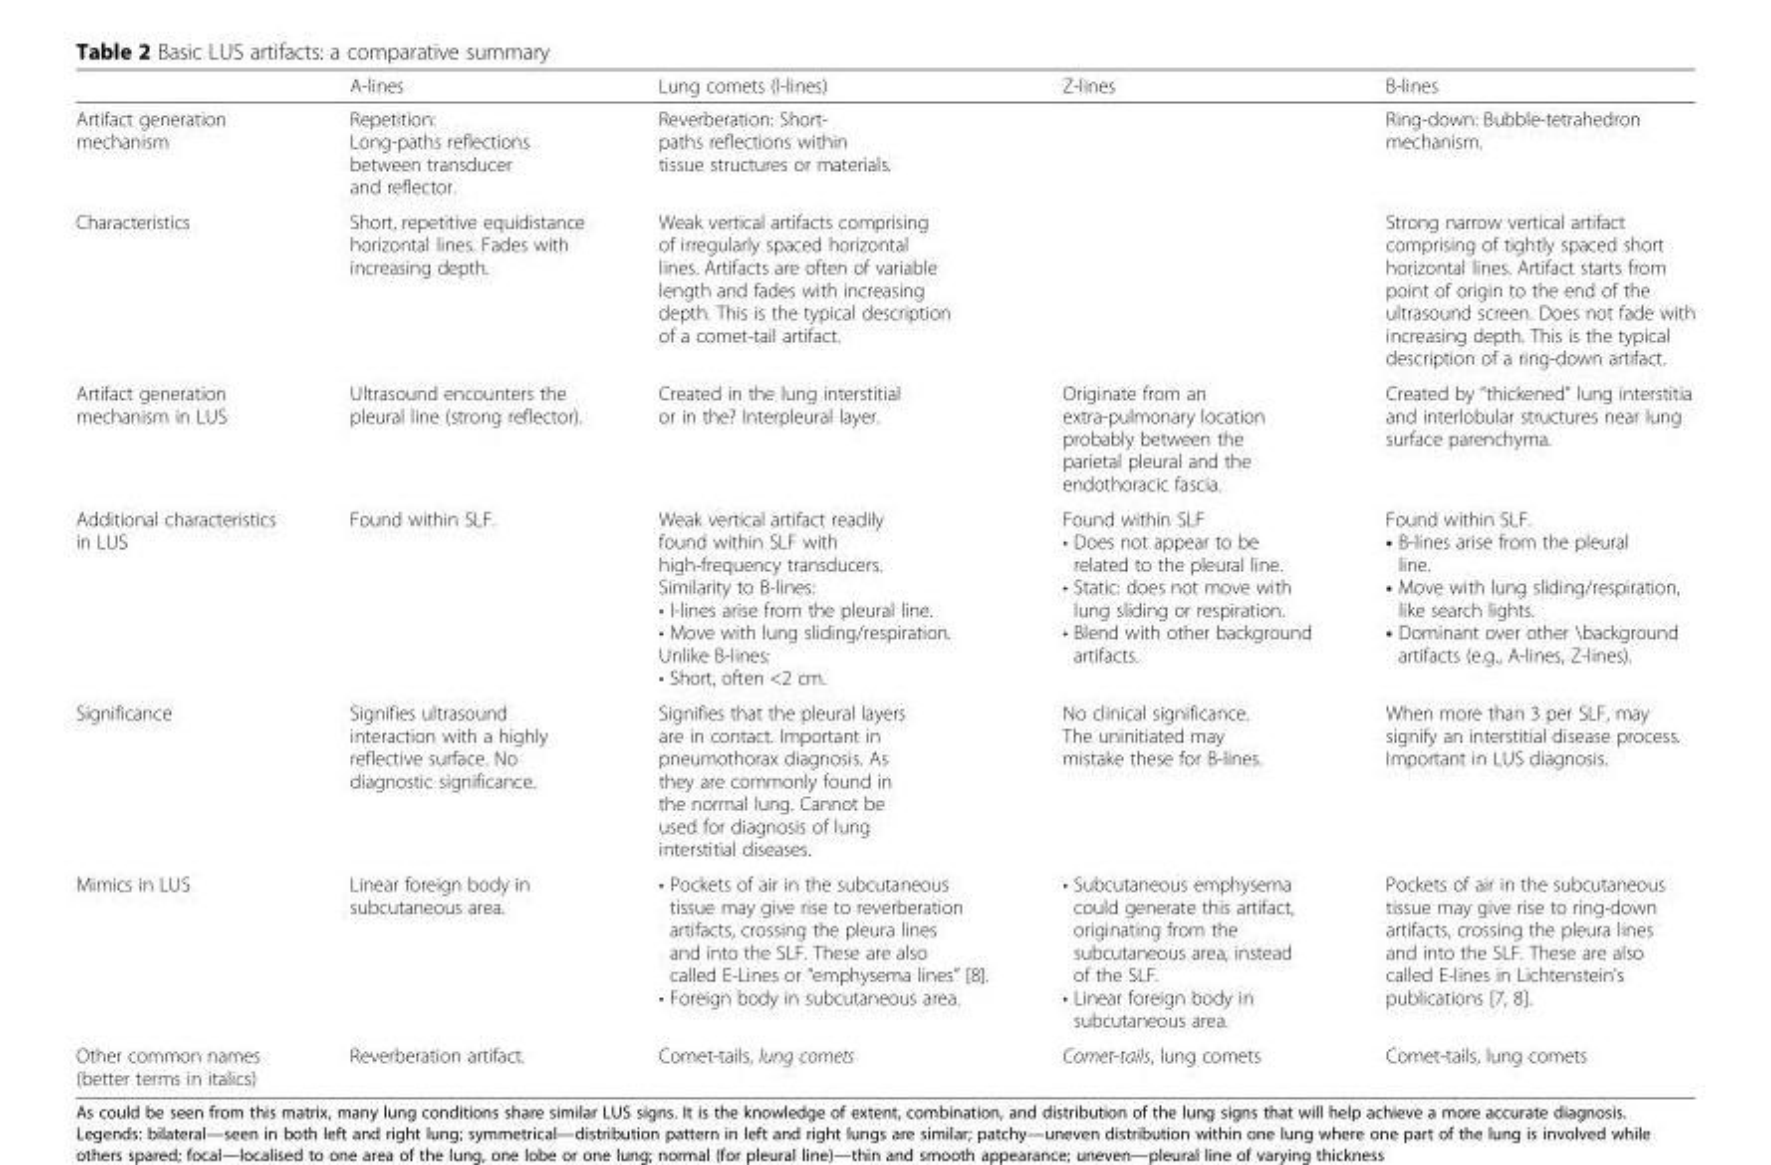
<table><thead><tr><td></td><td>A-lines</td><td>Lung comets (l-lines)</td><td>Z-lines</td><td>B-lines</td></tr></thead><tbody><tr><td>Artifact generation mechanism</td><td>Repetition: Long-paths reflections between transducer and reflector.</td><td colspan="2">Reverberation: Short- paths reflections within tissue structures or materials.</td><td>Ring-down: Bubble-tetrahedron mechanism.</td></tr><tr><td>Characteristics</td><td>Short, repetitive equidistance horizontal lines. Fades with increasing depth.</td><td colspan="2">Weak vertical artifacts comprising of irregularly spaced horizontal lines. Artifacts are often of variable length and fades with increasing depth. This is the typical description of a comet-tail artifact.</td><td>Strong narrow vertical artifact comprising of tightly spaced short horizontal lines. Artifact starts from point of origin to the end of the ultrasound screen. Does not fade with increasing depth. This is the typical description of a ring-down artifact.</td></tr><tr><td>Artifact generation mechanism in LUS</td><td>Ultrasound encounters the pleural line (strong reflector).</td><td>Created in the lung interstitial or in the? Interpleural layer.</td><td>Originate from an extra-pulmonary location probably between the parietal pleural and the endothoracic fascia.</td><td>Created by “thickened” lung interstitia and interlobular structures near lung surface parenchyma.</td></tr><tr><td>Additional characteristics in LUS</td><td>Found within SLF.</td><td>Weak vertical artifact readily found within SLF with high-frequency transducers. Similarity to B-lines: • l-lines arise from the pleural line. • Move with lung sliding/respiration. Unlike B-lines: • Short, often &lt;2 cm.</td><td>Found within SLF • Does not appear to be related to the pleural line. • Static: does not move with lung sliding or respiration. • Blend with other background artifacts.</td><td>Found within SLF. • B-lines arise from the pleural line. • Move with lung sliding/respiration, like search lights. • Dominant over other \background artifacts (e.g., A-lines, Z-lines).</td></tr><tr><td>Significance</td><td>Signifies ultrasound interaction with a highly reflective surface. No diagnostic significance.</td><td>Signifies that the pleural layers are in contact. Important in pneumothorax diagnosis. As they are commonly found in the normal lung. Cannot be used for diagnosis of lung interstitial diseases.</td><td>No clinical significance. The uninitiated may mistake these for B-lines.</td><td>When more than 3 per SLF, may signify an interstitial disease process. Important in LUS diagnosis.</td></tr><tr><td>Mimics in LUS</td><td>Linear foreign body in subcutaneous area.</td><td>• Pockets of air in the subcutaneous tissue may give rise to reverberation artifacts, crossing the pleura lines and into the SLF. These are also called E-Lines or “emphysema lines” [8]. • Foreign body in subcutaneous area.</td><td>• Subcutaneous emphysema could generate this artifact, originating from the subcutaneous area, instead of the SLF. • Linear foreign body in subcutaneous area.</td><td>Pockets of air in the subcutaneous tissue may give rise to ring-down artifacts, crossing the pleura lines and into the SLF. These are also called E-lines in Lichtenstein&#x27;s publications [7, 8].</td></tr><tr><td>Other common names (better terms in italics)</td><td>Reverberation artifact.</td><td>Comet-tails, lung comets</td><td>Comet-tails, lung comets</td><td>Comet-tails, lung comets</td></tr></tbody></table>